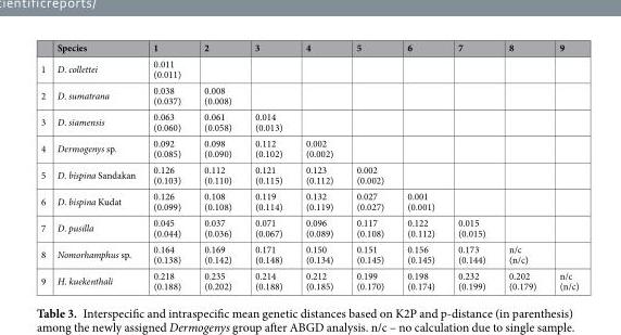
<table><thead><tr><td></td><td>Species</td><td>1</td><td>2</td><td>3</td><td>4</td><td>5</td><td>6</td><td>7</td><td>8</td><td>9</td></tr></thead><tbody><tr><td>1</td><td>D. collettei</td><td>0.011 (0.011)</td><td></td><td></td><td></td><td></td><td></td><td></td><td></td><td></td></tr><tr><td>2</td><td>D. sumatrana</td><td>0.038 (0.037)</td><td>0.008 (0.008)</td><td></td><td></td><td></td><td></td><td></td><td></td><td></td></tr><tr><td>3</td><td>D. siamensis</td><td>0.063 (0.060)</td><td>0.061 (0.058)</td><td>0.014 (0.013)</td><td></td><td></td><td></td><td></td><td></td><td></td></tr><tr><td>4</td><td>Dermogenys sp.</td><td>0.092 (0.085)</td><td>0.098 (0.090)</td><td>0.112 (0.102)</td><td>0.002 (0.002)</td><td></td><td></td><td></td><td></td><td></td></tr><tr><td>5</td><td>D. bispina Sandakan</td><td>0.126 (0.103)</td><td>0.112 (0.110)</td><td>0.121 (0.115)</td><td>0.123 (0.112)</td><td>0.002 (0.002)</td><td></td><td></td><td></td><td></td></tr><tr><td>6</td><td>D. bispina Kudat</td><td>0.126 (0.099)</td><td>0.108 (0.108)</td><td>0.119 (0.114)</td><td>0.132 (0.119)</td><td>0.027 (0.027)</td><td>0.001 (0.001)</td><td></td><td></td><td></td></tr><tr><td>7</td><td>D. pusilla</td><td>0.045 (0.044)</td><td>0.037 (0.036)</td><td>0.071 (0.067)</td><td>0.096 (0.089)</td><td>0.117 (0.108)</td><td>0.122 (0.112)</td><td>0.015 (0.015)</td><td></td><td></td></tr><tr><td>8</td><td>Nomorhamphus sp.</td><td>0.164 (0.138)</td><td>0.169 (0.142)</td><td>0.171 (0.148)</td><td>0.150 (0.134)</td><td>0.151 (0.145)</td><td>0.156 (0.145)</td><td>0.173 (0.144)</td><td>n/c (n/c)</td><td></td></tr><tr><td>9</td><td>H. kuekenthali</td><td>0.218 (0.188)</td><td>0.235 (0.202)</td><td>0.214 (0.188)</td><td>0.212 (0.185)</td><td>0.199 (0.170)</td><td>0.198 (0.174)</td><td>0.232 (0.199)</td><td>0.202 (0.179)</td><td>n/c (n/c)</td></tr></tbody></table>